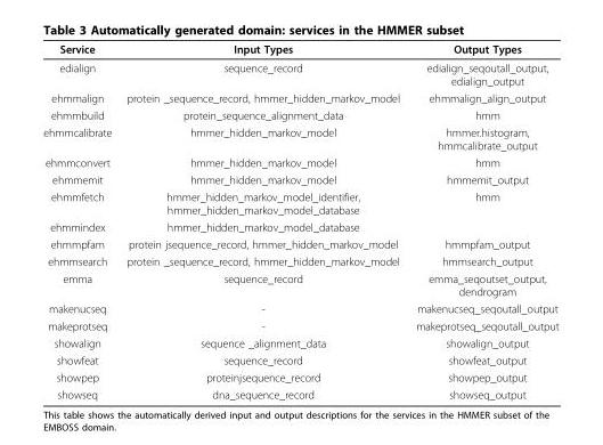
<table><thead><tr><td>Service</td><td>Input Types</td><td>Output Types</td></tr></thead><tbody><tr><td>edialign</td><td>sequence_record</td><td>edialign_seqoutall_output, edialign_output</td></tr><tr><td>ehmmalign</td><td>protein _sequence_record, hmmer_hidden_markov_model</td><td>ehmmalign_align_output</td></tr><tr><td>ehmmbuild</td><td>protein_sequence_alignment_data</td><td>hmm</td></tr><tr><td>ehmmcalibrate</td><td>hmmer_hidden_markov_model</td><td>hmmer.histogram, hmmcalibrate_output</td></tr><tr><td>ehmmconvert</td><td>hmmer_hidden_markov_model</td><td>hmm</td></tr><tr><td>ehmmemit</td><td>hmmer_hidden_markov_model</td><td>hmmemit_output</td></tr><tr><td>ehmmfetch</td><td>hmmer_hidden_markov_model_identifier, hmmer_hidden_markov_model_database</td><td>hmm</td></tr><tr><td>ehmmindex</td><td>hmmer_hidden_markov_model_database</td><td></td></tr><tr><td>ehmmpfam</td><td>protein jsequence_record, hmmer_hidden_markov_model</td><td>hmmpfam_output</td></tr><tr><td>ehmmsearch</td><td>protein _sequence_record, hmmer_hidden_markov_model</td><td>hmmsearch_output</td></tr><tr><td>emma</td><td>sequence_record</td><td>emma_seqoutset_output, dendrogram</td></tr><tr><td>makenucseq</td><td>-</td><td>makenucseq_seqoutall_output</td></tr><tr><td>makeprotseq</td><td>-</td><td>makeprotseq_seqoutall_output</td></tr><tr><td>showalign</td><td>sequence _alignment_data</td><td>showalign_output</td></tr><tr><td>showfeat</td><td>sequence_record</td><td>showfeat_output</td></tr><tr><td>showpep</td><td>proteinjsequence_record</td><td>showpep_output</td></tr><tr><td>showseq</td><td>dna_sequence_record</td><td>showseq_output</td></tr></tbody></table>